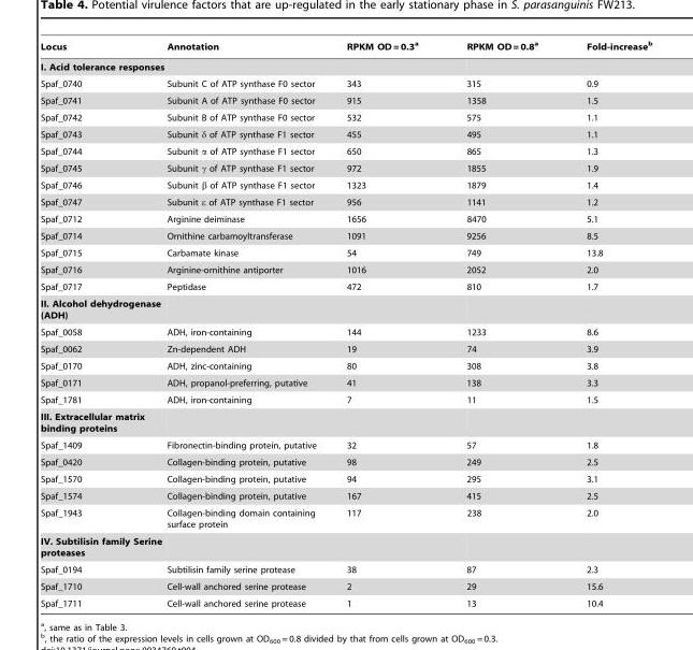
<table><thead><tr><td>Locus</td><td>Annotation</td><td>RPKM OD = 0.3<sup>a</sup></td><td>RPKM OD = 0.8<sup>a</sup></td><td>Fold-increase<sup>b</sup></td></tr></thead><tbody><tr><td colspan="5">I. Acid tolerance responses</td></tr><tr><td>Spaf_0740</td><td>Subunit C of ATP synthase F0 sector</td><td>343</td><td>315</td><td>0.9</td></tr><tr><td>Spaf_0741</td><td>Subunit A of ATP synthase F0 sector</td><td>915</td><td>1358</td><td>1.5</td></tr><tr><td>Spaf_0742</td><td>Subunit B of ATP synthase F0 sector</td><td>532</td><td>575</td><td>1.1</td></tr><tr><td>Spaf_0743</td><td>Subunit δ of ATP synthase F1 sector</td><td>455</td><td>495</td><td>1.1</td></tr><tr><td>Spaf_0744</td><td>Subunit α of ATP synthase F1 sector</td><td>650</td><td>865</td><td>1.3</td></tr><tr><td>Spaf_0745</td><td>Subunit γ of ATP synthase F1 sector</td><td>972</td><td>1855</td><td>1.9</td></tr><tr><td>Spaf_0746</td><td>Subunit β of ATP synthase F1 sector</td><td>1323</td><td>1879</td><td>1.4</td></tr><tr><td>Spaf_0747</td><td>Subunit ε of ATP synthase F1 sector</td><td>956</td><td>1141</td><td>1.2</td></tr><tr><td>Spaf_0712</td><td>Arginine deiminase</td><td>1656</td><td>8470</td><td>5.1</td></tr><tr><td>Spaf_0714</td><td>Ornithine carbamoyltransferase</td><td>1091</td><td>9256</td><td>8.5</td></tr><tr><td>Spaf_0715</td><td>Carbamate kinase</td><td>54</td><td>749</td><td>13.8</td></tr><tr><td>Spaf_0716</td><td>Arginine-ornithine antiporter</td><td>1016</td><td>2052</td><td>2.0</td></tr><tr><td>Spaf_0717</td><td>Peptidase</td><td>472</td><td>810</td><td>1.7</td></tr><tr><td colspan="5">II. Alcohol dehydrogenase (ADH)</td></tr><tr><td>Spaf_0058</td><td>ADH, iron-containing</td><td>144</td><td>1233</td><td>8.6</td></tr><tr><td>Spaf_0062</td><td>Zn-dependent ADH</td><td>19</td><td>74</td><td>3.9</td></tr><tr><td>Spaf_0170</td><td>ADH, zinc-containing</td><td>80</td><td>308</td><td>3.8</td></tr><tr><td>Spaf_0171</td><td>ADH, propanol-preferring, putative</td><td>41</td><td>138</td><td>3.3</td></tr><tr><td>Spaf_1781</td><td>ADH, iron-containing</td><td>7</td><td>11</td><td>1.5</td></tr><tr><td colspan="5">III. Extracellular matrix binding proteins</td></tr><tr><td>Spaf_1409</td><td>Fibronectin-binding protein, putative</td><td>32</td><td>57</td><td>1.8</td></tr><tr><td>Spaf_0420</td><td>Collagen-binding protein, putative</td><td>98</td><td>249</td><td>2.5</td></tr><tr><td>Spaf_1570</td><td>Collagen-binding protein, putative</td><td>94</td><td>295</td><td>3.1</td></tr><tr><td>Spaf_1574</td><td>Collagen-binding protein, putative</td><td>167</td><td>415</td><td>2.5</td></tr><tr><td>Spaf_1943</td><td>Collagen-binding domain containing surface protein</td><td>117</td><td>238</td><td>2.0</td></tr><tr><td colspan="5">IV. Subtilisin family Serine proteases</td></tr><tr><td>Spaf_0194</td><td>Subtilisin family serine protease</td><td>38</td><td>87</td><td>2.3</td></tr><tr><td>Spaf_1710</td><td>Cell-wall anchored serine protease</td><td>2</td><td>29</td><td>15.6</td></tr><tr><td>Spaf_1711</td><td>Cell-wall anchored serine protease</td><td>1</td><td>13</td><td>10.4</td></tr></tbody></table>